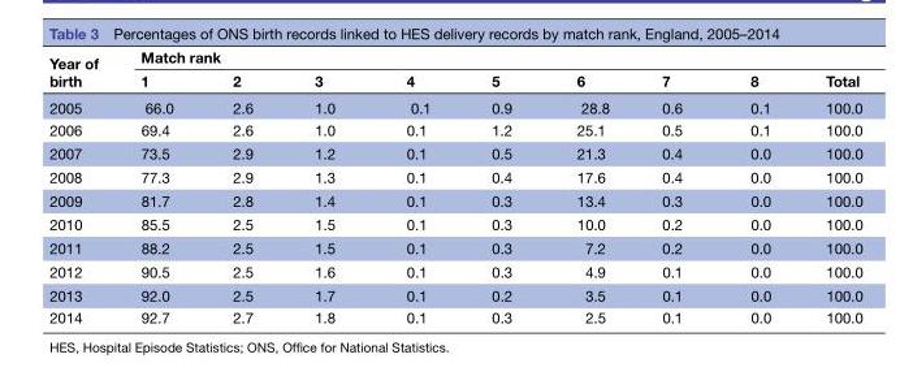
<table><thead><tr><td rowspan="2">Year of birth</td><td colspan="9">Match rank</td></tr><tr><td>1</td><td>2</td><td>3</td><td>4</td><td>5</td><td>6</td><td>7</td><td>8</td><td>Total</td></tr></thead><tbody><tr><td>2005</td><td>66.0</td><td>2.6</td><td>1.0</td><td>0.1</td><td>0.9</td><td>28.8</td><td>0.6</td><td>0.1</td><td>100.0</td></tr><tr><td>2006</td><td>69.4</td><td>2.6</td><td>1.0</td><td>0.1</td><td>1.2</td><td>25.1</td><td>0.5</td><td>0.1</td><td>100.0</td></tr><tr><td>2007</td><td>73.5</td><td>2.9</td><td>1.2</td><td>0.1</td><td>0.5</td><td>21.3</td><td>0.4</td><td>0.0</td><td>100.0</td></tr><tr><td>2008</td><td>77.3</td><td>2.9</td><td>1.3</td><td>0.1</td><td>0.4</td><td>17.6</td><td>0.4</td><td>0.0</td><td>100.0</td></tr><tr><td>2009</td><td>81.7</td><td>2.8</td><td>1.4</td><td>0.1</td><td>0.3</td><td>13.4</td><td>0.3</td><td>0.0</td><td>100.0</td></tr><tr><td>2010</td><td>85.5</td><td>2.5</td><td>1.5</td><td>0.1</td><td>0.3</td><td>10.0</td><td>0.2</td><td>0.0</td><td>100.0</td></tr><tr><td>2011</td><td>88.2</td><td>2.5</td><td>1.5</td><td>0.1</td><td>0.3</td><td>7.2</td><td>0.2</td><td>0.0</td><td>100.0</td></tr><tr><td>2012</td><td>90.5</td><td>2.5</td><td>1.6</td><td>0.1</td><td>0.3</td><td>4.9</td><td>0.1</td><td>0.0</td><td>100.0</td></tr><tr><td>2013</td><td>92.0</td><td>2.5</td><td>1.7</td><td>0.1</td><td>0.2</td><td>3.5</td><td>0.1</td><td>0.0</td><td>100.0</td></tr><tr><td>2014</td><td>92.7</td><td>2.7</td><td>1.8</td><td>0.1</td><td>0.3</td><td>2.5</td><td>0.1</td><td>0.0</td><td>100.0</td></tr></tbody></table>